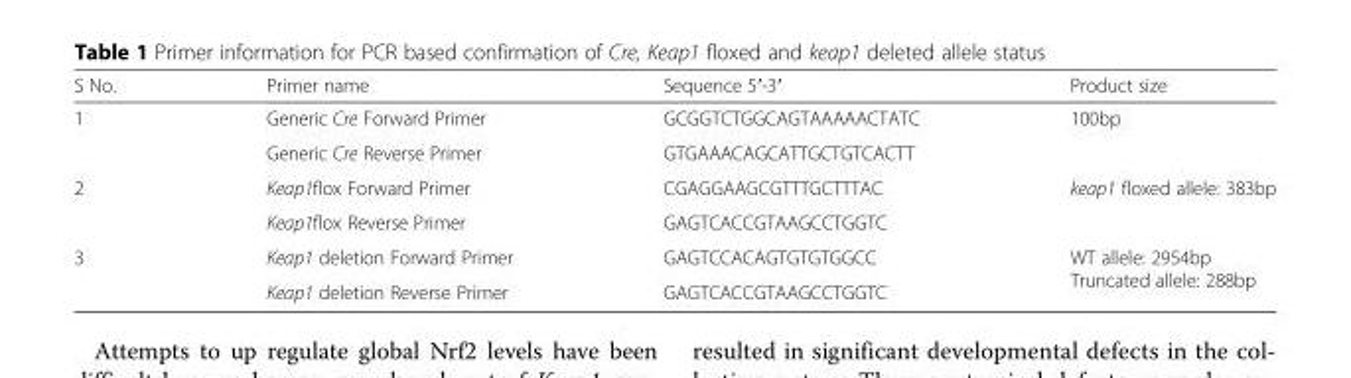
<table><thead><tr><td>S No.</td><td>Primer name</td><td>Sequence 5′-3′</td><td>Product size</td></tr></thead><tbody><tr><td rowspan="2">1</td><td>Generic Cre Forward Primer</td><td>GCGGTCTGGCAGTAAAAACTATC</td><td rowspan="2">100bp</td></tr><tr><td>Generic Cre Reverse Primer</td><td>GTGAAACAGCATTGCTGTCACTT</td></tr><tr><td rowspan="2">2</td><td>Keap1flox Forward Primer</td><td>CGAGGAAGCGTTTGCTTTAC</td><td rowspan="2">keap1 floxed allele: 383bp</td></tr><tr><td>Keap1flox Reverse Primer</td><td>GAGTCACCGTAAGCCTGGTC</td></tr><tr><td rowspan="2">3</td><td>Keap1 deletion Forward Primer</td><td>GAGTCCACAGTGTGTGGCC</td><td rowspan="2">WT allele: 2954bp Truncated allele: 288bp</td></tr><tr><td>Keap1 deletion Reverse Primer</td><td>GAGTCACCGTAAGCCTGGTC</td></tr></tbody></table>